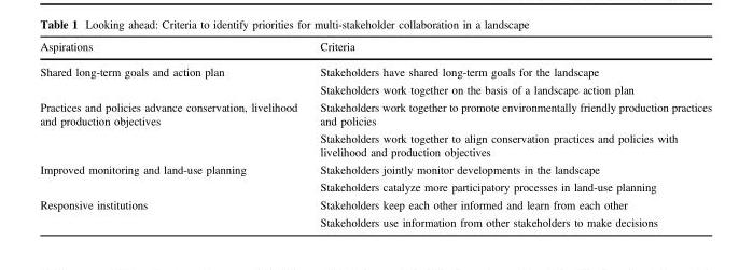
<table><thead><tr><td>Aspirations</td><td>Criteria</td></tr></thead><tbody><tr><td rowspan="2">Shared long-term goals and action plan</td><td>Stakeholders have shared long-term goals for the landscape</td></tr><tr><td>Stakeholders work together on the basis of a landscape action plan</td></tr><tr><td rowspan="2">Practices and policies advance conservation, livelihood and production objectives</td><td>Stakeholders work together to promote environmentally friendly production practices and policies</td></tr><tr><td>Stakeholders work together to align conservation practices and policies with livelihood and production objectives</td></tr><tr><td rowspan="2">Improved monitoring and land-use planning</td><td>Stakeholders jointly monitor developments in the landscape</td></tr><tr><td>Stakeholders catalyze more participatory processes in land-use planning</td></tr><tr><td rowspan="2">Responsive institutions</td><td>Stakeholders keep each other informed and learn from each other</td></tr><tr><td>Stakeholders use information from other stakeholders to make decisions</td></tr></tbody></table>